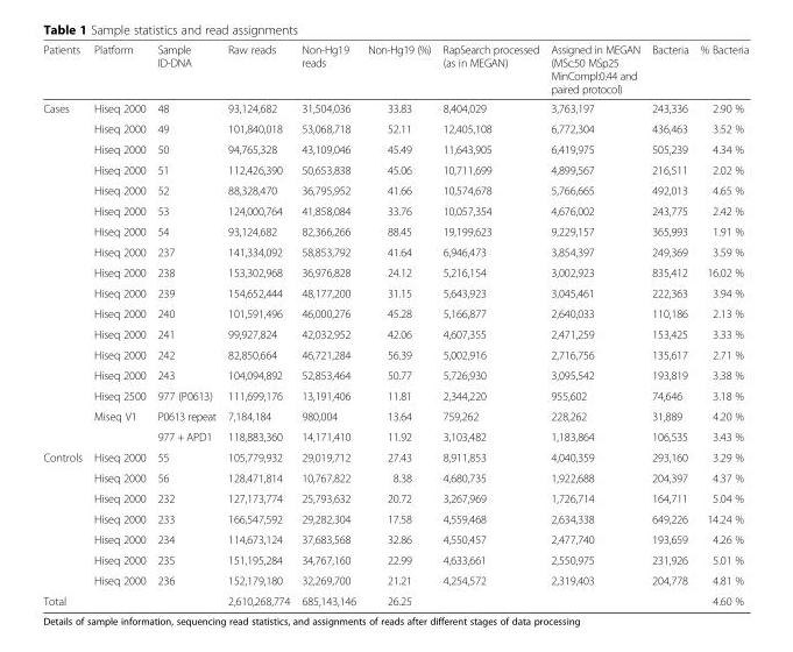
<table><thead><tr><td>Patients</td><td>Platform</td><td>Sample ID-DNA</td><td>Raw reads</td><td>Non-Hg19 reads</td><td>Non-Hg19 (%)</td><td>RapSearch processed (as in MEGAN)</td><td>Assigned in MEGAN (MSc:50 MSp25 MinCompl:0.44 and paired protocol)</td><td>Bacteria</td><td>% Bacteria</td></tr></thead><tbody><tr><td rowspan="17">Cases</td><td>Hiseq 2000</td><td>48</td><td>93,124,682</td><td>31,504,036</td><td>33.83</td><td>8,404,029</td><td>3,763,197</td><td>243,336</td><td>2.90 %</td></tr><tr><td>Hiseq 2000</td><td>49</td><td>101,840,018</td><td>53,068,718</td><td>52.11</td><td>12,405,108</td><td>6,772,304</td><td>436,463</td><td>3.52 %</td></tr><tr><td>Hiseq 2000</td><td>50</td><td>94,765,328</td><td>43,109,046</td><td>45.49</td><td>11,643,905</td><td>6,419,975</td><td>505,239</td><td>4.34 %</td></tr><tr><td>Hiseq 2000</td><td>51</td><td>112,426,390</td><td>50,653,838</td><td>45.06</td><td>10,711,699</td><td>4,899,567</td><td>216,511</td><td>2.02 %</td></tr><tr><td>Hiseq 2000</td><td>52</td><td>88,328,470</td><td>36,795,952</td><td>41.66</td><td>10,574,678</td><td>5,766,665</td><td>492,013</td><td>4.65 %</td></tr><tr><td>Hiseq 2000</td><td>53</td><td>124,000,764</td><td>41,858,084</td><td>33.76</td><td>10,057,354</td><td>4,676,002</td><td>243,775</td><td>2.42 %</td></tr><tr><td>Hiseq 2000</td><td>54</td><td>93,124,682</td><td>82,366,266</td><td>88.45</td><td>19,199,623</td><td>9,229,157</td><td>365,993</td><td>1.91 %</td></tr><tr><td>Hiseq 2000</td><td>237</td><td>141,334,092</td><td>58,853,792</td><td>41.64</td><td>6,946,473</td><td>3,854,397</td><td>249,369</td><td>3.59 %</td></tr><tr><td>Hiseq 2000</td><td>238</td><td>153,302,968</td><td>36,976,828</td><td>24.12</td><td>5,216,154</td><td>3,002,923</td><td>835,412</td><td>16.02 %</td></tr><tr><td>Hiseq 2000</td><td>239</td><td>154,652,444</td><td>48,177,200</td><td>31.15</td><td>5,643,923</td><td>3,045,461</td><td>222,363</td><td>3.94 %</td></tr><tr><td>Hiseq 2000</td><td>240</td><td>101,591,496</td><td>46,000,276</td><td>45.28</td><td>5,166,877</td><td>2,640,033</td><td>110,186</td><td>2.13 %</td></tr><tr><td>Hiseq 2000</td><td>241</td><td>99,927,824</td><td>42,032,952</td><td>42.06</td><td>4,607,355</td><td>2,471,259</td><td>153,425</td><td>3.33 %</td></tr><tr><td>Hiseq 2000</td><td>242</td><td>82,850,664</td><td>46,721,284</td><td>56.39</td><td>5,002,916</td><td>2,716,756</td><td>135,617</td><td>2.71 %</td></tr><tr><td>Hiseq 2000</td><td>243</td><td>104,094,892</td><td>52,853,464</td><td>50.77</td><td>5,726,930</td><td>3,095,542</td><td>193,819</td><td>3.38 %</td></tr><tr><td>Hiseq 2500</td><td>977 (P0613)</td><td>111,699,176</td><td>13,191,406</td><td>11.81</td><td>2,344,220</td><td>955,602</td><td>74,646</td><td>3.18 %</td></tr><tr><td>Miseq V1</td><td>P0613 repeat</td><td>7,184,184</td><td>980,004</td><td>13.64</td><td>759,262</td><td>228,262</td><td>31,889</td><td>4.20 %</td></tr><tr><td></td><td>977 + APD1</td><td>118,883,360</td><td>14,171,410</td><td>11.92</td><td>3,103,482</td><td>1,183,864</td><td>106,535</td><td>3.43 %</td></tr><tr><td rowspan="7">Controls</td><td>Hiseq 2000</td><td>55</td><td>105,779,932</td><td>29,019,712</td><td>27.43</td><td>8,911,853</td><td>4,040,359</td><td>293,160</td><td>3.29 %</td></tr><tr><td>Hiseq 2000</td><td>56</td><td>128,471,814</td><td>10,767,822</td><td>8.38</td><td>4,680,735</td><td>1,922,688</td><td>204,397</td><td>4.37 %</td></tr><tr><td>Hiseq 2000</td><td>232</td><td>127,173,774</td><td>25,793,632</td><td>20.72</td><td>3,267,969</td><td>1,726,714</td><td>164,711</td><td>5.04 %</td></tr><tr><td>Hiseq 2000</td><td>233</td><td>166,547,592</td><td>29,282,304</td><td>17.58</td><td>4,559,468</td><td>2,634,338</td><td>649,226</td><td>14.24 %</td></tr><tr><td>Hiseq 2000</td><td>234</td><td>114,673,124</td><td>37,683,568</td><td>32.86</td><td>4,550,457</td><td>2,477,740</td><td>193,659</td><td>4.26 %</td></tr><tr><td>Hiseq 2000</td><td>235</td><td>151,195,284</td><td>34,767,160</td><td>22.99</td><td>4,633,661</td><td>2,550,975</td><td>231,926</td><td>5.01 %</td></tr><tr><td>Hiseq 2000</td><td>236</td><td>152,179,180</td><td>32,269,700</td><td>21.21</td><td>4,254,572</td><td>2,319,403</td><td>204,778</td><td>4.81 %</td></tr><tr><td>Total</td><td></td><td></td><td>2,610,268,774</td><td>685,143,146</td><td>26.25</td><td></td><td></td><td></td><td>4.60 %</td></tr></tbody></table>